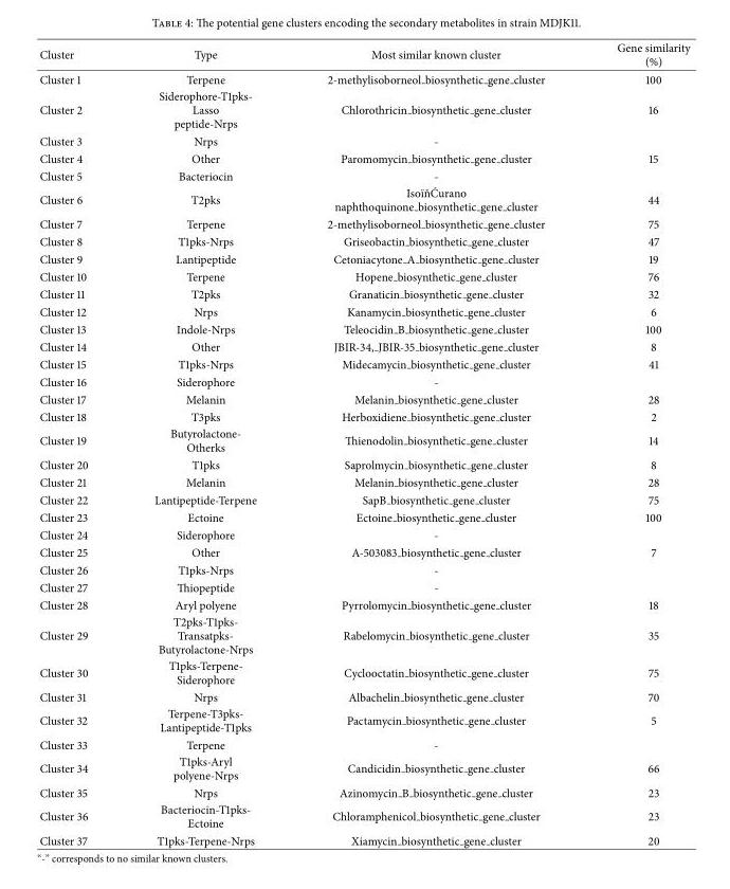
<table><thead><tr><td>Cluster</td><td>Type</td><td>Most similar known cluster</td><td>Gene similarity (%)</td></tr></thead><tbody><tr><td>Cluster 1</td><td>Terpene</td><td>2-methylisoborneol biosynthetic gene cluster</td><td>100</td></tr><tr><td>Cluster 2</td><td>Siderophore-T1pks- Lasso peptide-Nrps</td><td>Chlorothricin biosynthetic gene cluster</td><td>16</td></tr><tr><td>Cluster 3</td><td>Nrps</td><td>-</td><td></td></tr><tr><td>Cluster 4</td><td>Other</td><td>Paromomycin biosynthetic gene cluster</td><td>15</td></tr><tr><td>Cluster 5</td><td>Bacteriocin</td><td>-</td><td></td></tr><tr><td>Cluster 6</td><td>T2pks</td><td>IsoïňĆurano naphthoquinone biosynthetic gene cluster</td><td>44</td></tr><tr><td>Cluster 7</td><td>Terpene</td><td>2-methylisoborneol biosynthetic gene cluster</td><td>75</td></tr><tr><td>Cluster 8</td><td>T1pks-Nrps</td><td>Griseobactin biosynthetic gene cluster</td><td>47</td></tr><tr><td>Cluster 9</td><td>Lantipeptide</td><td>Cetoniacytone <sub>A</sub> biosynthetic <sub>gene</sub> cluster</td><td>19</td></tr><tr><td>Cluster 10</td><td>Terpene</td><td>Hopene biosynthetic gene cluster</td><td>76</td></tr><tr><td>Cluster 11</td><td>T2pks</td><td>Granaticin biosynthetic gene cluster</td><td>32</td></tr><tr><td>Cluster 12</td><td>Nrps</td><td>Kanamycin biosynthetic gene cluster</td><td>6</td></tr><tr><td>Cluster 13</td><td>Indole-Nrps</td><td>Teleocidin <sub>B</sub> biosynthetic <sub>gene</sub> cluster</td><td>100</td></tr><tr><td>Cluster 14</td><td>Other</td><td>JBIR-34, <sub>JBIR-35</sub> biosynthetic <sub>gene</sub> cluster</td><td>8</td></tr><tr><td>Cluster 15</td><td>T1pks-Nrps</td><td>Midecamycin biosynthetic gene cluster</td><td>41</td></tr><tr><td>Cluster 16</td><td>Siderophore</td><td>-</td><td></td></tr><tr><td>Cluster 17</td><td>Melanin</td><td>Melanin biosynthetic gene cluster</td><td>28</td></tr><tr><td>Cluster 18</td><td>T3pks</td><td>Herboxidiene biosynthetic gene cluster</td><td>2</td></tr><tr><td>Cluster 19</td><td>Butyrolactone- Otherks</td><td>Thienodolin biosynthetic gene cluster</td><td>14</td></tr><tr><td>Cluster 20</td><td>T1pks</td><td>Saprolmycin biosynthetic gene cluster</td><td>8</td></tr><tr><td>Cluster 21</td><td>Melanin</td><td>Melanin biosynthetic gene cluster</td><td>28</td></tr><tr><td>Cluster 22</td><td>Lantipeptide-Terpene</td><td>SapB biosynthetic gene cluster</td><td>75</td></tr><tr><td>Cluster 23</td><td>Ectoine</td><td>Ectoine biosynthetic gene cluster</td><td>100</td></tr><tr><td>Cluster 24</td><td>Siderophore</td><td>-</td><td></td></tr><tr><td>Cluster 25</td><td>Other</td><td>A-503083 biosynthetic gene cluster</td><td>7</td></tr><tr><td>Cluster 26</td><td>T1pks-Nrps</td><td>-</td><td></td></tr><tr><td>Cluster 27</td><td>Thiopeptide</td><td>-</td><td></td></tr><tr><td>Cluster 28</td><td>Aryl polyene</td><td>Pyrrolomycin biosynthetic gene cluster</td><td>18</td></tr><tr><td>Cluster 29</td><td>T2pks-T1pks- Transatpks- Butyrolactone-Nrps</td><td>Rabelomycin biosynthetic gene cluster</td><td>35</td></tr><tr><td>Cluster 30</td><td>T1pks-Terpene- Siderophore</td><td>Cyclooctatin biosynthetic gene cluster</td><td>75</td></tr><tr><td>Cluster 31</td><td>Nrps</td><td>Albachelin biosynthetic gene cluster</td><td>70</td></tr><tr><td>Cluster 32</td><td>Terpene-T3pks- Lantipeptide-T1pks</td><td>Pactamycin biosynthetic gene cluster</td><td>5</td></tr><tr><td>Cluster 33</td><td>Terpene</td><td>-</td><td></td></tr><tr><td>Cluster 34</td><td>T1pks-Aryl polyene-Nrps</td><td>Candicidin biosynthetic gene cluster</td><td>66</td></tr><tr><td>Cluster 35</td><td>Nrps</td><td>Azinomycin <sub>B</sub> biosynthetic <sub>gene</sub> cluster</td><td>23</td></tr><tr><td>Cluster 36</td><td>Bacteriocin-T1pks- Ectoine</td><td>Chloramphenicol biosynthetic gene cluster</td><td>23</td></tr><tr><td>Cluster 37</td><td>T1pks-Terpene-Nrps</td><td>Xiamycin biosynthetic gene cluster</td><td>20</td></tr></tbody></table>